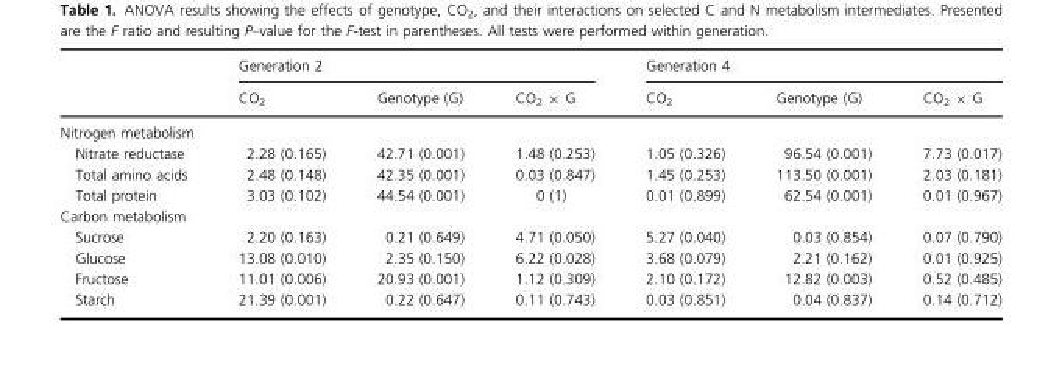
<table><thead><tr><td rowspan="2"></td><td colspan="3">Generation 2</td><td colspan="3">Generation 4</td></tr><tr><td>CO<sub>2</sub></td><td>Genotype (G)</td><td>CO<sub>2</sub> × G</td><td>CO<sub>2</sub></td><td>Genotype (G)</td><td>CO<sub>2</sub> × G</td></tr></thead><tbody><tr><td colspan="7">Nitrogen metabolism</td></tr><tr><td>Nitrate reductase</td><td>2.28 (0.165)</td><td>42.71 (0.001)</td><td>1.48 (0.253)</td><td>1.05 (0.326)</td><td>96.54 (0.001)</td><td>7.73 (0.017)</td></tr><tr><td>Total amino acids</td><td>2.48 (0.148)</td><td>42.35 (0.001)</td><td>0.03 (0.847)</td><td>1.45 (0.253)</td><td>113.50 (0.001)</td><td>2.03 (0.181)</td></tr><tr><td>Total protein</td><td>3.03 (0.102)</td><td>44.54 (0.001)</td><td>0 (1)</td><td>0.01 (0.899)</td><td>62.54 (0.001)</td><td>0.01 (0.967)</td></tr><tr><td colspan="7">Carbon metabolism</td></tr><tr><td>Sucrose</td><td>2.20 (0.163)</td><td>0.21 (0.649)</td><td>4.71 (0.050)</td><td>5.27 (0.040)</td><td>0.03 (0.854)</td><td>0.07 (0.790)</td></tr><tr><td>Glucose</td><td>13.08 (0.010)</td><td>2.35 (0.150)</td><td>6.22 (0.028)</td><td>3.68 (0.079)</td><td>2.21 (0.162)</td><td>0.01 (0.925)</td></tr><tr><td>Fructose</td><td>11.01 (0.006)</td><td>20.93 (0.001)</td><td>1.12 (0.309)</td><td>2.10 (0.172)</td><td>12.82 (0.003)</td><td>0.52 (0.485)</td></tr><tr><td>Starch</td><td>21.39 (0.001)</td><td>0.22 (0.647)</td><td>0.11 (0.743)</td><td>0.03 (0.851)</td><td>0.04 (0.837)</td><td>0.14 (0.712)</td></tr></tbody></table>